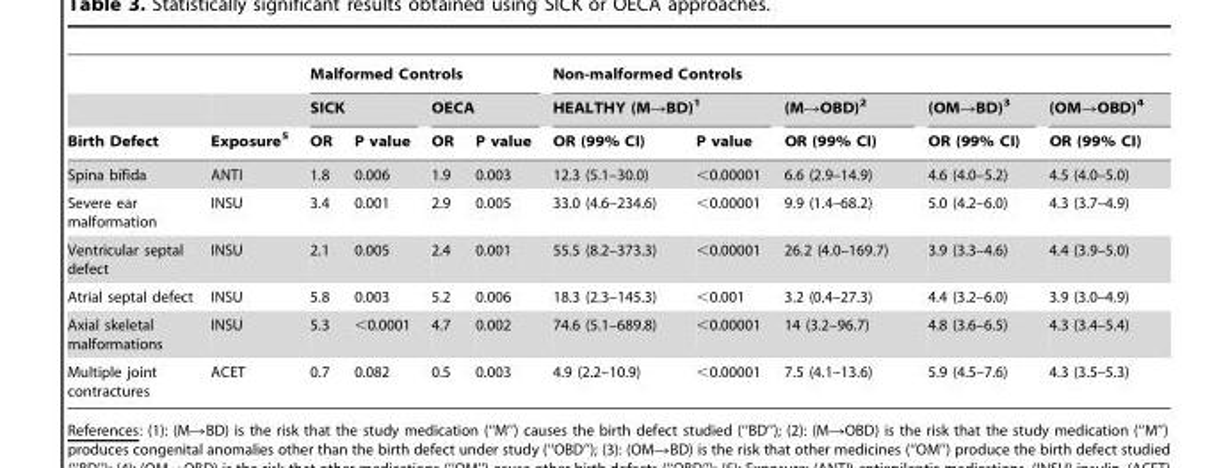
<table><thead><tr><td rowspan="3">Birth Defect</td><td rowspan="3">Exposure<sup>5</sup></td><td colspan="4">Malformed Controls</td><td colspan="5">Non-malformed Controls</td></tr><tr><td colspan="2">SICK</td><td colspan="2">OECA</td><td colspan="2">HEALTHY (M→BD)<sup>1</sup></td><td rowspan="2">(M→OBD)<sup>2</sup> OR (99% CI)</td><td rowspan="2">(OM→BD)<sup>3</sup> OR (99% CI)</td><td rowspan="2">(OM→OBD)<sup>4</sup> OR (99% CI)</td></tr><tr><td>OR</td><td>P value</td><td>OR</td><td>P value</td><td>OR (99% CI)</td><td>P value</td></tr></thead><tbody><tr><td>Spina bı´fida</td><td>ANTI</td><td>1.8</td><td>0.006</td><td>1.9</td><td>0.003</td><td>12.3 (5.1–30.0)</td><td>&lt;0.00001</td><td>6.6 (2.9–14.9)</td><td>4.6 (4.0–5.2)</td><td>4.5 (4.0–5.0)</td></tr><tr><td>Severe ear malformation</td><td>INSU</td><td>3.4</td><td>0.001</td><td>2.9</td><td>0.005</td><td>33.0 (4.6–234.6)</td><td>&lt;0.00001</td><td>9.9 (1.4–68.2)</td><td>5.0 (4.2–6.0)</td><td>4.3 (3.7–4.9)</td></tr><tr><td>Ventricular septal defect</td><td>INSU</td><td>2.1</td><td>0.005</td><td>2.4</td><td>0.001</td><td>55.5 (8.2–373.3)</td><td>&lt;0.00001</td><td>26.2 (4.0–169.7)</td><td>3.9 (3.3–4.6)</td><td>4.4 (3.9–5.0)</td></tr><tr><td>Atrial septal defect</td><td>INSU</td><td>5.8</td><td>0.003</td><td>5.2</td><td>0.006</td><td>18.3 (2.3–145.3)</td><td>&lt;0.001</td><td>3.2 (0.4–27.3)</td><td>4.4 (3.2–6.0)</td><td>3.9 (3.0–4.9)</td></tr><tr><td>Axial skeletal malformations</td><td>INSU</td><td>5.3</td><td>&lt;0.0001</td><td>4.7</td><td>0.002</td><td>74.6 (5.1–689.8)</td><td>&lt;0.00001</td><td>14 (3.2–96.7)</td><td>4.8 (3.6–6.5)</td><td>4.3 (3.4–5.4)</td></tr><tr><td>Multiple joint contractures</td><td>ACET</td><td>0.7</td><td>0.082</td><td>0.5</td><td>0.003</td><td>4.9 (2.2–10.9)</td><td>&lt;0.00001</td><td>7.5 (4.1–13.6)</td><td>5.9 (4.5–7.6)</td><td>4.3 (3.5–5.3)</td></tr></tbody></table>